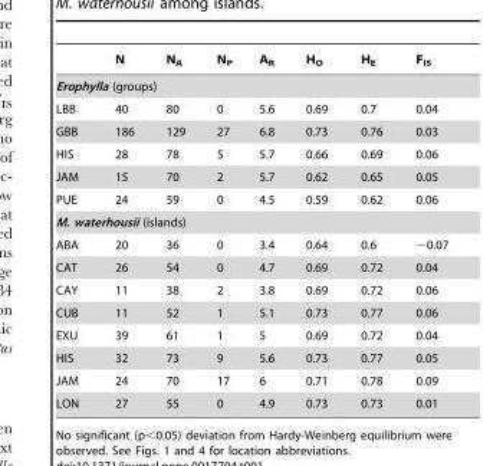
<table><thead><tr><td></td><td>N</td><td>N<sub>A</sub></td><td>N<sub>P</sub></td><td>A<sub>R</sub></td><td>H<sub>O</sub></td><td>H<sub>E</sub></td><td>F<sub>IS</sub></td></tr></thead><tbody><tr><td colspan="8">Erophylla (groups)</td></tr><tr><td>LBB</td><td>40</td><td>80</td><td>0</td><td>5.6</td><td>0.69</td><td>0.7</td><td>0.04</td></tr><tr><td>GBB</td><td>186</td><td>129</td><td>27</td><td>6.8</td><td>0.73</td><td>0.76</td><td>0.03</td></tr><tr><td>HIS</td><td>28</td><td>78</td><td>5</td><td>5.7</td><td>0.66</td><td>0.69</td><td>0.06</td></tr><tr><td>JAM</td><td>15</td><td>70</td><td>2</td><td>5.7</td><td>0.62</td><td>0.65</td><td>0.05</td></tr><tr><td>PUE</td><td>24</td><td>59</td><td>0</td><td>4.5</td><td>0.59</td><td>0.62</td><td>0.06</td></tr><tr><td colspan="8">M. waterhousii (islands)</td></tr><tr><td>ABA</td><td>20</td><td>36</td><td>0</td><td>3.4</td><td>0.64</td><td>0.6</td><td>−0.07</td></tr><tr><td>CAT</td><td>26</td><td>54</td><td>0</td><td>4.7</td><td>0.69</td><td>0.72</td><td>0.04</td></tr><tr><td>CAY</td><td>11</td><td>38</td><td>2</td><td>3.8</td><td>0.69</td><td>0.72</td><td>0.06</td></tr><tr><td>CUB</td><td>11</td><td>52</td><td>1</td><td>5.1</td><td>0.73</td><td>0.77</td><td>0.06</td></tr><tr><td>EXU</td><td>39</td><td>61</td><td>1</td><td>5</td><td>0.69</td><td>0.72</td><td>0.04</td></tr><tr><td>HIS</td><td>32</td><td>73</td><td>9</td><td>5.6</td><td>0.73</td><td>0.77</td><td>0.05</td></tr><tr><td>JAM</td><td>24</td><td>70</td><td>17</td><td>6</td><td>0.71</td><td>0.78</td><td>0.09</td></tr><tr><td>LON</td><td>27</td><td>55</td><td>0</td><td>4.9</td><td>0.73</td><td>0.73</td><td>0.01</td></tr></tbody></table>